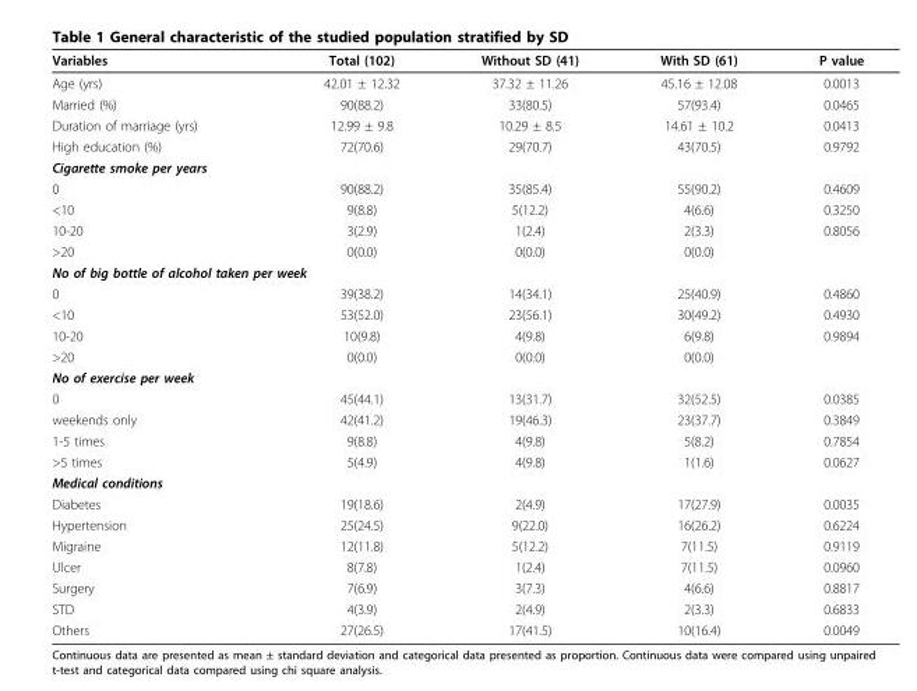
<table><thead><tr><td>Variables</td><td>Total (102)</td><td>Without SD (41)</td><td>With SD (61)</td><td>P value</td></tr></thead><tbody><tr><td>Age (yrs)</td><td>42.01 ± 12.32</td><td>37.32 ± 11.26</td><td>45.16 ± 12.08</td><td>0.0013</td></tr><tr><td>Married (%)</td><td>90(88.2)</td><td>33(80.5)</td><td>57(93.4)</td><td>0.0465</td></tr><tr><td>Duration of marriage (yrs)</td><td>12.99 ± 9.8</td><td>10.29 ± 8.5</td><td>14.61 ± 10.2</td><td>0.0413</td></tr><tr><td>High education (%)</td><td>72(70.6)</td><td>29(70.7)</td><td>43(70.5)</td><td>0.9792</td></tr><tr><td colspan="5">Cigarette smoke per years</td></tr><tr><td>0</td><td>90(88.2)</td><td>35(85.4)</td><td>55(90.2)</td><td>0.4609</td></tr><tr><td>&lt;10</td><td>9(8.8)</td><td>5(12.2)</td><td>4(6.6)</td><td>0.3250</td></tr><tr><td>10-20</td><td>3(2.9)</td><td>1(2.4)</td><td>2(3.3)</td><td>0.8056</td></tr><tr><td>&gt;20</td><td>0(0.0)</td><td>0(0.0)</td><td>0(0.0)</td><td></td></tr><tr><td colspan="5">No of big bottle of alcohol taken per week</td></tr><tr><td>0</td><td>39(38.2)</td><td>14(34.1)</td><td>25(40.9)</td><td>0.4860</td></tr><tr><td>&lt;10</td><td>53(52.0)</td><td>23(56.1)</td><td>30(49.2)</td><td>0.4930</td></tr><tr><td>10-20</td><td>10(9.8)</td><td>4(9.8)</td><td>6(9.8)</td><td>0.9894</td></tr><tr><td>&gt;20</td><td>0(0.0)</td><td>0(0.0)</td><td>0(0.0)</td><td></td></tr><tr><td colspan="5">No of exercise per week</td></tr><tr><td>0</td><td>45(44.1)</td><td>13(31.7)</td><td>32(52.5)</td><td>0.0385</td></tr><tr><td>weekends only</td><td>42(41.2)</td><td>19(46.3)</td><td>23(37.7)</td><td>0.3849</td></tr><tr><td>1-5 times</td><td>9(8.8)</td><td>4(9.8)</td><td>5(8.2)</td><td>0.7854</td></tr><tr><td>&gt;5 times</td><td>5(4.9)</td><td>4(9.8)</td><td>1(1.6)</td><td>0.0627</td></tr><tr><td colspan="5">Medical conditions</td></tr><tr><td>Diabetes</td><td>19(18.6)</td><td>2(4.9)</td><td>17(27.9)</td><td>0.0035</td></tr><tr><td>Hypertension</td><td>25(24.5)</td><td>9(22.0)</td><td>16(26.2)</td><td>0.6224</td></tr><tr><td>Migraine</td><td>12(11.8)</td><td>5(12.2)</td><td>7(11.5)</td><td>0.9119</td></tr><tr><td>Ulcer</td><td>8(7.8)</td><td>1(2.4)</td><td>7(11.5)</td><td>0.0960</td></tr><tr><td>Surgery</td><td>7(6.9)</td><td>3(7.3)</td><td>4(6.6)</td><td>0.8817</td></tr><tr><td>STD</td><td>4(3.9)</td><td>2(4.9)</td><td>2(3.3)</td><td>0.6833</td></tr><tr><td>Others</td><td>27(26.5)</td><td>17(41.5)</td><td>10(16.4)</td><td>0.0049</td></tr></tbody></table>